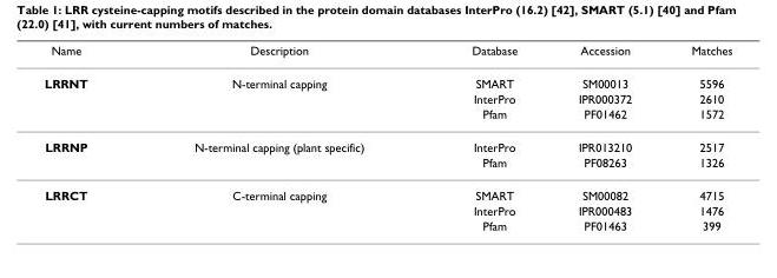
<table><thead><tr><td>Name</td><td>Description</td><td>Database</td><td>Accession</td><td>Matches</td></tr></thead><tbody><tr><td rowspan="3">LRRNT</td><td>N-terminal capping</td><td>SMART</td><td>SM00013</td><td>5596</td></tr><tr><td></td><td>InterPro</td><td>IPR000372</td><td>2610</td></tr><tr><td></td><td>Pfam</td><td>PF01462</td><td>1572</td></tr><tr><td rowspan="2">LRRNP</td><td>N-terminal capping (plant specific)</td><td>InterPro</td><td>IPR013210</td><td>2517</td></tr><tr><td></td><td>Pfam</td><td>PF08263</td><td>1326</td></tr><tr><td rowspan="3">LRRCT</td><td>C-terminal capping</td><td>SMART</td><td>SM00082</td><td>4715</td></tr><tr><td></td><td>InterPro</td><td>IPR000483</td><td>1476</td></tr><tr><td></td><td>Pfam</td><td>PF01463</td><td>399</td></tr></tbody></table>